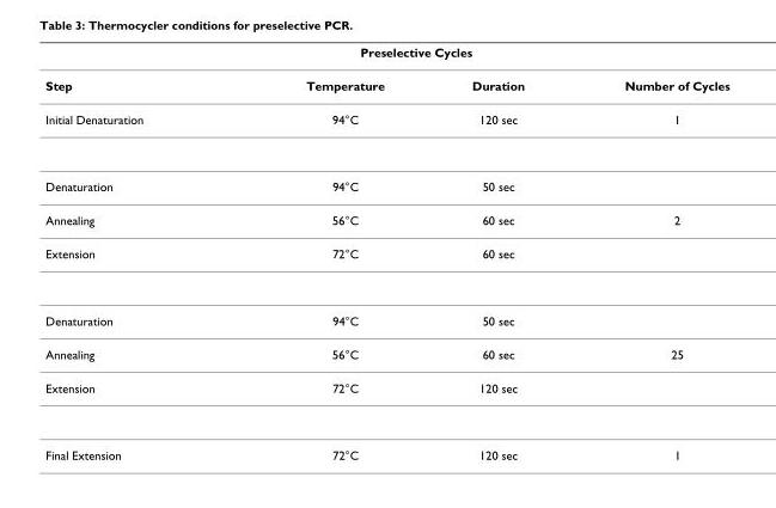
<table><thead><tr><td colspan="4">Preselective Cycles</td></tr><tr><td>Step</td><td>Temperature</td><td>Duration</td><td>Number of Cycles</td></tr></thead><tbody><tr><td>Initial Denaturation</td><td>94°C</td><td>120 sec</td><td>1</td></tr><tr><td>Denaturation</td><td>94°C</td><td>50 sec</td><td></td></tr><tr><td>Annealing</td><td>56°C</td><td>60 sec</td><td>2</td></tr><tr><td>Extension</td><td>72°C</td><td>60 sec</td><td></td></tr><tr><td>Denaturation</td><td>94°C</td><td>50 sec</td><td></td></tr><tr><td>Annealing</td><td>56°C</td><td>60 sec</td><td>25</td></tr><tr><td>Extension</td><td>72°C</td><td>120 sec</td><td></td></tr><tr><td>Final Extension</td><td>72°C</td><td>120 sec</td><td>1</td></tr></tbody></table>